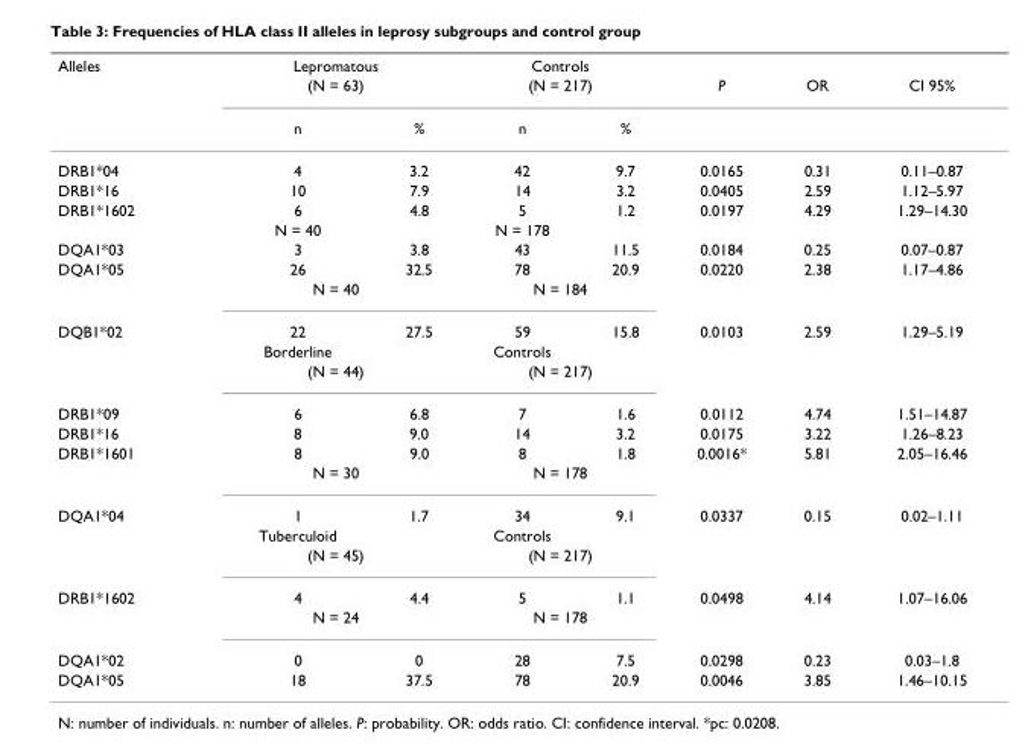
<table><thead><tr><td rowspan="3">Alleles</td><td rowspan="2" colspan="2">Lepromatous (N = 63)</td><td rowspan="2" colspan="2">Controls (N = 217)</td><td rowspan="3">P</td><td rowspan="3">OR</td><td rowspan="3">CI 95%</td></tr><tr></tr><tr><td>n</td><td>%</td><td>n</td><td>%</td></tr></thead><tbody><tr><td>DRB1*04</td><td>4</td><td>3.2</td><td>42</td><td>9.7</td><td>0.0165</td><td>0.31</td><td>0.11–0.87</td></tr><tr><td>DRB1*16</td><td>10</td><td>7.9</td><td>14</td><td>3.2</td><td>0.0405</td><td>2.59</td><td>1.12–5.97</td></tr><tr><td rowspan="2">DRB1*1602</td><td>6</td><td>4.8</td><td>5</td><td>1.2</td><td>0.0197</td><td>4.29</td><td>1.29–14.30</td></tr><tr><td>N = 40</td><td></td><td>N = 178</td><td></td><td></td><td></td><td></td></tr><tr><td>DQA1*03</td><td>3</td><td>3.8</td><td>43</td><td>11.5</td><td>0.0184</td><td>0.25</td><td>0.07–0.87</td></tr><tr><td rowspan="2">DQA1*05</td><td>26</td><td>32.5</td><td>78</td><td>20.9</td><td>0.0220</td><td>2.38</td><td>1.17–4.86</td></tr><tr><td colspan="2">N = 40</td><td colspan="2">N = 184</td><td></td><td></td><td></td></tr><tr><td rowspan="3">DQB1*02</td><td>22</td><td>27.5</td><td>59</td><td>15.8</td><td>0.0103</td><td>2.59</td><td>1.29–5.19</td></tr><tr><td>Borderline</td><td></td><td>Controls</td><td></td><td></td><td></td><td></td></tr><tr><td colspan="2">(N = 44)</td><td colspan="2">(N = 217)</td><td></td><td></td><td></td></tr><tr><td>DRB1*09</td><td>6</td><td>6.8</td><td>7</td><td>1.6</td><td>0.0112</td><td>4.74</td><td>1.51–14.87</td></tr><tr><td>DRB1*16</td><td>8</td><td>9.0</td><td>14</td><td>3.2</td><td>0.0175</td><td>3.22</td><td>1.26–8.23</td></tr><tr><td rowspan="2">DRB1*1601</td><td>8</td><td>9.0</td><td>8</td><td>1.8</td><td>0.0016*</td><td>5.81</td><td>2.05–16.46</td></tr><tr><td colspan="2">N = 30</td><td colspan="2">N = 178</td><td></td><td></td><td></td></tr><tr><td rowspan="3">DQA1*04</td><td>1</td><td>1.7</td><td>34</td><td>9.1</td><td>0.0337</td><td>0.15</td><td>0.02–1.11</td></tr><tr><td>Tuberculoid</td><td></td><td>Controls</td><td></td><td></td><td></td><td></td></tr><tr><td colspan="2">(N = 45)</td><td colspan="2">(N = 217)</td><td></td><td></td><td></td></tr><tr><td rowspan="2">DRB1*1602</td><td>4</td><td>4.4</td><td>5</td><td>1.1</td><td>0.0498</td><td>4.14</td><td>1.07–16.06</td></tr><tr><td colspan="2">N = 24</td><td colspan="2">N = 178</td><td></td><td></td><td></td></tr><tr><td>DQA1*02</td><td>0</td><td>0</td><td>28</td><td>7.5</td><td>0.0298</td><td>0.23</td><td>0.03–1.8</td></tr><tr><td>DQA1*05</td><td>18</td><td>37.5</td><td>78</td><td>20.9</td><td>0.0046</td><td>3.85</td><td>1.46–10.15</td></tr></tbody></table>